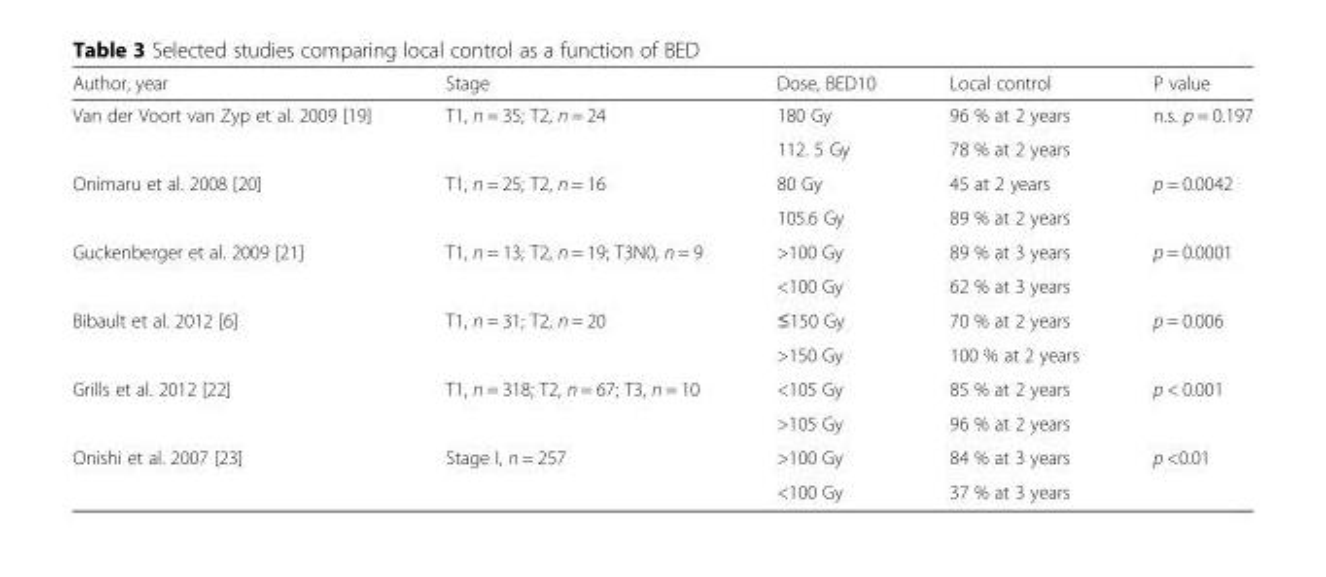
<table><thead><tr><td>Author, year</td><td>Stage</td><td>Dose, BED10</td><td>Local control</td><td>P value</td></tr></thead><tbody><tr><td rowspan="2">Van der Voort van Zyp et al. 2009 [19]</td><td rowspan="2">T1, n = 35; T2, n = 24</td><td>180 Gy</td><td>96 % at 2 years</td><td rowspan="2">n.s. p = 0.197</td></tr><tr><td>112. 5 Gy</td><td>78 % at 2 years</td></tr><tr><td rowspan="2">Onimaru et al. 2008 [20]</td><td rowspan="2">T1, n = 25; T2, n = 16</td><td>80 Gy</td><td>45 at 2 years</td><td rowspan="2">p = 0.0042</td></tr><tr><td>105.6 Gy</td><td>89 % at 2 years</td></tr><tr><td rowspan="2">Guckenberger et al. 2009 [21]</td><td rowspan="2">T1, n = 13; T2, n = 19; T3N0, n = 9</td><td>&gt;100 Gy</td><td>89 % at 3 years</td><td rowspan="2">p = 0.0001</td></tr><tr><td>&lt;100 Gy</td><td>62 % at 3 years</td></tr><tr><td rowspan="2">Bibault et al. 2012 [6]</td><td rowspan="2">T1, n = 31; T2, n = 20</td><td>≤150 Gy</td><td>70 % at 2 years</td><td rowspan="2">p = 0.006</td></tr><tr><td>&gt;150 Gy</td><td>100 % at 2 years</td></tr><tr><td rowspan="2">Grills et al. 2012 [22]</td><td rowspan="2">T1, n = 318; T2, n = 67; T3, n = 10</td><td>&lt;105 Gy</td><td>85 % at 2 years</td><td rowspan="2">p &lt; 0.001</td></tr><tr><td>&gt;105 Gy</td><td>96 % at 2 years</td></tr><tr><td rowspan="2">Onishi et al. 2007 [23]</td><td rowspan="2">Stage I, n = 257</td><td>&gt;100 Gy</td><td>84 % at 3 years</td><td rowspan="2">p &lt;0.01</td></tr><tr><td>&lt;100 Gy</td><td>37 % at 3 years</td></tr></tbody></table>